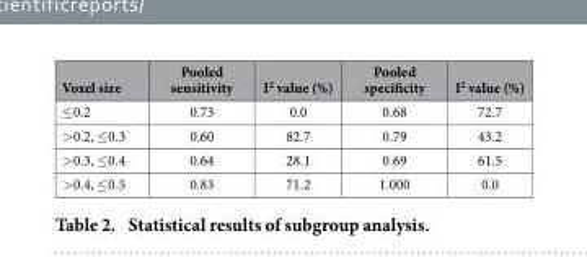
<table><thead><tr><td>Voxel size</td><td>Pooled sensitivity</td><td>I<sup>2</sup> value (%)</td><td>Pooled specificity</td><td>I<sup>2</sup> value (%)</td></tr></thead><tbody><tr><td>≤ 0.2</td><td>0.73</td><td>0.0</td><td>0.68</td><td>72.7</td></tr><tr><td>&gt; 0.2, ≤ 0.3</td><td>0.60</td><td>82.7</td><td>0.79</td><td>43.2</td></tr><tr><td>&gt; 0.3, ≤ 0.4</td><td>0.64</td><td>28.1</td><td>0.69</td><td>61.5</td></tr><tr><td>&gt; 0.4, ≤ 0.5</td><td>0.83</td><td>71.2</td><td>1.000</td><td>0.0</td></tr></tbody></table>